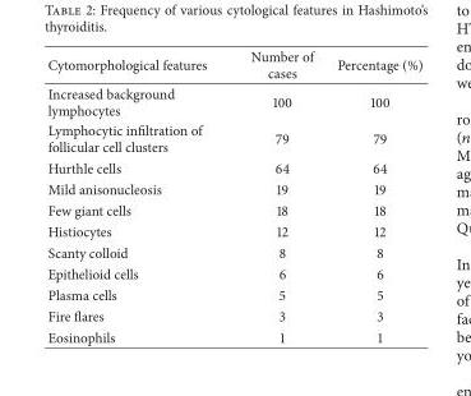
<table><thead><tr><td>Cytomorphological features</td><td>Number of cases</td><td>Percentage (%)</td></tr></thead><tbody><tr><td>Increased background lymphocytes</td><td>100</td><td>100</td></tr><tr><td>Lymphocytic infiltration of follicular cell clusters</td><td>79</td><td>79</td></tr><tr><td>Hurthle cells</td><td>64</td><td>64</td></tr><tr><td>Mild anisonucleosis</td><td>19</td><td>19</td></tr><tr><td>Few giant cells</td><td>18</td><td>18</td></tr><tr><td>Histiocytes</td><td>12</td><td>12</td></tr><tr><td>Scanty colloid</td><td>8</td><td>8</td></tr><tr><td>Epithelioid cells</td><td>6</td><td>6</td></tr><tr><td>Plasma cells</td><td>5</td><td>5</td></tr><tr><td>Fire flares</td><td>3</td><td>3</td></tr><tr><td>Eosinophils</td><td>1</td><td>1</td></tr></tbody></table>